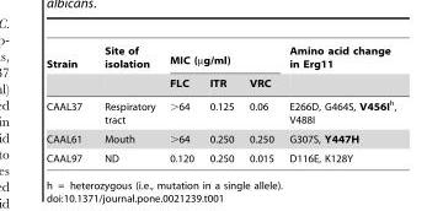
<table><thead><tr><td rowspan="2">Strain</td><td rowspan="2">Site of isolation</td><td colspan="3">MIC (µg/ml)</td><td rowspan="2">Amino acid change in Erg11</td></tr><tr><td>FLC</td><td>ITR</td><td>VRC</td></tr></thead><tbody><tr><td>CAAL37</td><td>Respiratory tract</td><td>&gt;64</td><td>0.125</td><td>0.06</td><td>E266D, G464S, V456I<sup>h</sup>, V488I</td></tr><tr><td>CAAL61</td><td>Mouth</td><td>&gt;64</td><td>0.250</td><td>0.250</td><td>G307S, Y447H</td></tr><tr><td>CAAL97</td><td>ND</td><td>0.120</td><td>0.250</td><td>0.015</td><td>D116E, K128Y</td></tr></tbody></table>